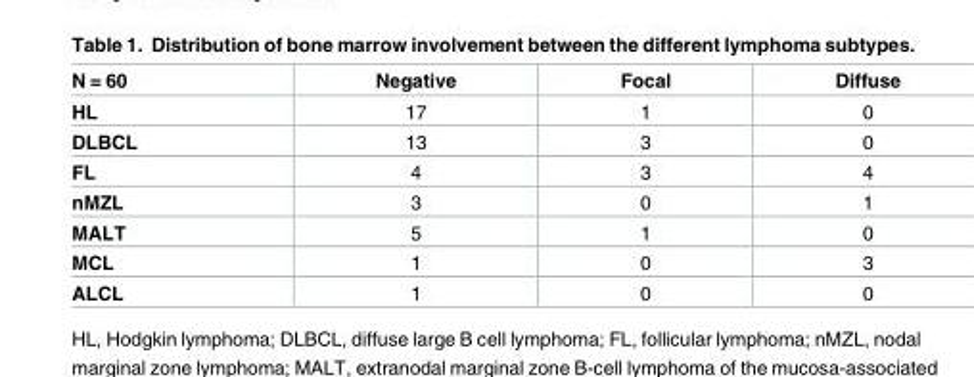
<table><thead><tr><td>N = 60</td><td>Negative</td><td>Focal</td><td>Diffuse</td></tr></thead><tbody><tr><td>HL</td><td>17</td><td>1</td><td>0</td></tr><tr><td>DLBCL</td><td>13</td><td>3</td><td>0</td></tr><tr><td>FL</td><td>4</td><td>3</td><td>4</td></tr><tr><td>nMZL</td><td>3</td><td>0</td><td>1</td></tr><tr><td>MALT</td><td>5</td><td>1</td><td>0</td></tr><tr><td>MCL</td><td>1</td><td>0</td><td>3</td></tr><tr><td>ALCL</td><td>1</td><td>0</td><td>0</td></tr></tbody></table>